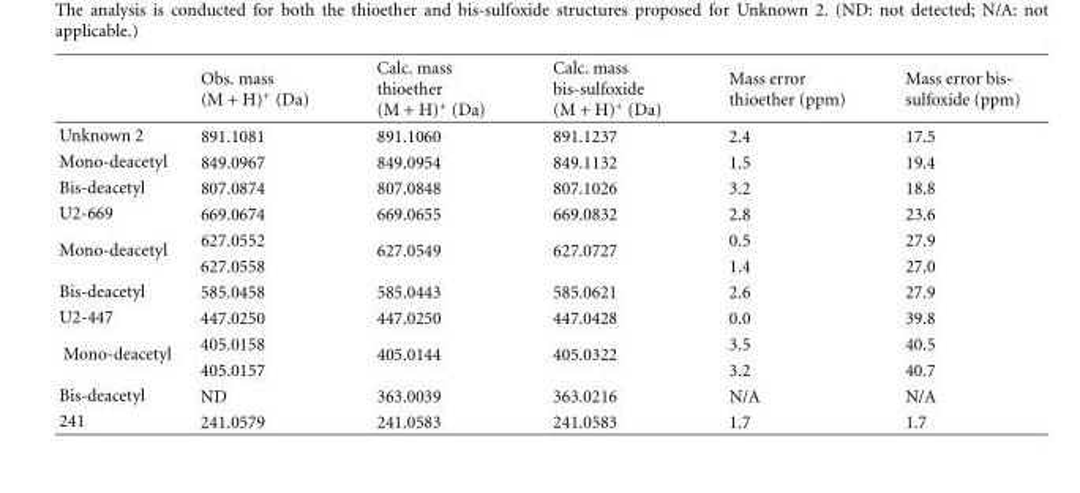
<table><thead><tr><td></td><td>Obs. mass (M + H)<sup>+</sup> (Da)</td><td>Calc. mass thioether (M + H)<sup>+</sup> (Da)</td><td>Calc. mass bis-sulfoxide (M + H)<sup>+</sup> (Da)</td><td>Mass error thioether (ppm)</td><td>Mass error bis- sulfoxide (ppm)</td></tr></thead><tbody><tr><td>Unknown 2</td><td>891.1081</td><td>891.1060</td><td>891.1237</td><td>2.4</td><td>17.5</td></tr><tr><td>Mono-deacetyl</td><td>849.0967</td><td>849.0954</td><td>849.1132</td><td>1.5</td><td>19.4</td></tr><tr><td>Bis-deacetyl</td><td>807.0874</td><td>807.0848</td><td>807.1026</td><td>3.2</td><td>18.8</td></tr><tr><td>U2-669</td><td>669.0674</td><td>669.0655</td><td>669.0832</td><td>2.8</td><td>23.6</td></tr><tr><td rowspan="2">Mono-deacetyl</td><td>627.0552</td><td rowspan="2">627.0549</td><td rowspan="2">627.0727</td><td>0.5</td><td>27.9</td></tr><tr><td>627.0558</td><td>1.4</td><td>27.0</td></tr><tr><td>Bis-deacetyl</td><td>585.0458</td><td>585.0443</td><td>585.0621</td><td>2.6</td><td>27.9</td></tr><tr><td>U2-447</td><td>447.0250</td><td>447.0250</td><td>447.0428</td><td>0.0</td><td>39.8</td></tr><tr><td rowspan="2">Mono-deacetyl</td><td>405.0158</td><td rowspan="2">405.0144</td><td rowspan="2">405.0322</td><td>3.5</td><td>40.5</td></tr><tr><td>405.0157</td><td>3.2</td><td>40.7</td></tr><tr><td>Bis-deacetyl</td><td>ND</td><td>363.0039</td><td>363.0216</td><td>N/A</td><td>N/A</td></tr><tr><td>241</td><td>241.0579</td><td>241.0583</td><td>241.0583</td><td>1.7</td><td>1.7</td></tr></tbody></table>